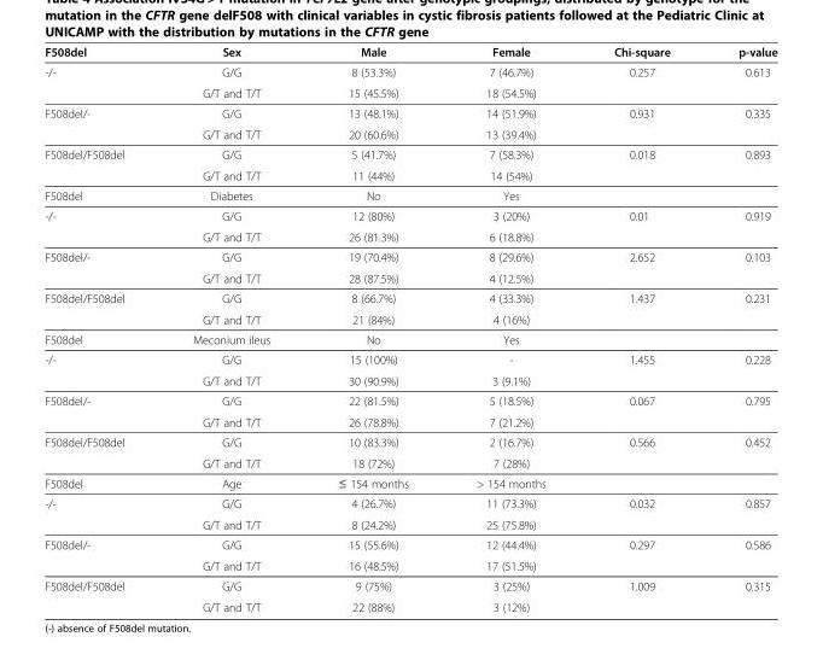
<table><thead><tr><td>F508del</td><td>Sex</td><td>Male</td><td>Female</td><td>Chi-square</td><td>p-value</td></tr></thead><tbody><tr><td rowspan="2">-/-</td><td>G/G</td><td>8 (53.3%)</td><td>7 (46.7%)</td><td>0.257</td><td>0.613</td></tr><tr><td>G/T and T/T</td><td>15 (45.5%)</td><td>18 (54.5%)</td><td></td><td></td></tr><tr><td rowspan="2">F508del/-</td><td>G/G</td><td>13 (48.1%)</td><td>14 (51.9%)</td><td>0.931</td><td>0.335</td></tr><tr><td>G/T and T/T</td><td>20 (60.6%)</td><td>13 (39.4%)</td><td></td><td></td></tr><tr><td rowspan="2">F508del/F508del</td><td>G/G</td><td>5 (41.7%)</td><td>7 (58.3%)</td><td>0.018</td><td>0.893</td></tr><tr><td>G/T and T/T</td><td>11 (44%)</td><td>14 (54%)</td><td></td><td></td></tr><tr><td>F508del</td><td>Diabetes</td><td>No</td><td>Yes</td><td></td><td></td></tr><tr><td rowspan="2">-/-</td><td>G/G</td><td>12 (80%)</td><td>3 (20%)</td><td>0.01</td><td>0.919</td></tr><tr><td>G/T and T/T</td><td>26 (81.3%)</td><td>6 (18.8%)</td><td></td><td></td></tr><tr><td rowspan="2">F508del/-</td><td>G/G</td><td>19 (70.4%)</td><td>8 (29.6%)</td><td>2.652</td><td>0.103</td></tr><tr><td>G/T and T/T</td><td>28 (87.5%)</td><td>4 (12.5%)</td><td></td><td></td></tr><tr><td rowspan="2">F508del/F508del</td><td>G/G</td><td>8 (66.7%)</td><td>4 (33.3%)</td><td>1.437</td><td>0.231</td></tr><tr><td>G/T and T/T</td><td>21 (84%)</td><td>4 (16%)</td><td></td><td></td></tr><tr><td>F508del</td><td>Meconium ileus</td><td>No</td><td>Yes</td><td></td><td></td></tr><tr><td rowspan="2">-/-</td><td>G/G</td><td>15 (100%)</td><td>-</td><td>1.455</td><td>0.228</td></tr><tr><td>G/T and T/T</td><td>30 (90.9%)</td><td>3 (9.1%)</td><td></td><td></td></tr><tr><td rowspan="2">F508del/-</td><td>G/G</td><td>22 (81.5%)</td><td>5 (18.5%)</td><td>0.067</td><td>0.795</td></tr><tr><td>G/T and T/T</td><td>26 (78.8%)</td><td>7 (21.2%)</td><td></td><td></td></tr><tr><td rowspan="2">F508del/F508del</td><td>G/G</td><td>10 (83.3%)</td><td>2 (16.7%)</td><td>0.566</td><td>0.452</td></tr><tr><td>G/T and T/T</td><td>18 (72%)</td><td>7 (28%)</td><td></td><td></td></tr><tr><td>F508del</td><td>Age</td><td>≤ 154 months</td><td>&gt; 154 months</td><td></td><td></td></tr><tr><td rowspan="2">-/-</td><td>G/G</td><td>4 (26.7%)</td><td>11 (73.3%)</td><td>0.032</td><td>0.857</td></tr><tr><td>G/T and T/T</td><td>8 (24.2%)</td><td>25 (75.8%)</td><td></td><td></td></tr><tr><td rowspan="2">F508del/-</td><td>G/G</td><td>15 (55.6%)</td><td>12 (44.4%)</td><td>0.297</td><td>0.586</td></tr><tr><td>G/T and T/T</td><td>16 (48.5%)</td><td>17 (51.5%)</td><td></td><td></td></tr><tr><td rowspan="2">F508del/F508del</td><td>G/G</td><td>9 (75%)</td><td>3 (25%)</td><td>1.009</td><td>0.315</td></tr><tr><td>G/T and T/T</td><td>22 (88%)</td><td>3 (12%)</td><td></td><td></td></tr></tbody></table>